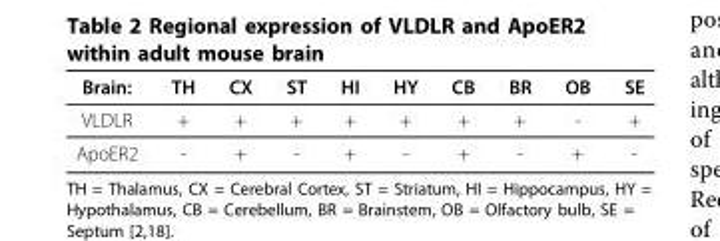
<table><thead><tr><td>Brain:</td><td>TH</td><td>CX</td><td>ST</td><td>HI</td><td>HY</td><td>CB</td><td>BR</td><td>OB</td><td>SE</td></tr></thead><tbody><tr><td>VLDLR</td><td>+</td><td>+</td><td>+</td><td>+</td><td>+</td><td>+</td><td>+</td><td>-</td><td>+</td></tr><tr><td>ApoER2</td><td>-</td><td>+</td><td>-</td><td>+</td><td>-</td><td>+</td><td>-</td><td>+</td><td>-</td></tr></tbody></table>